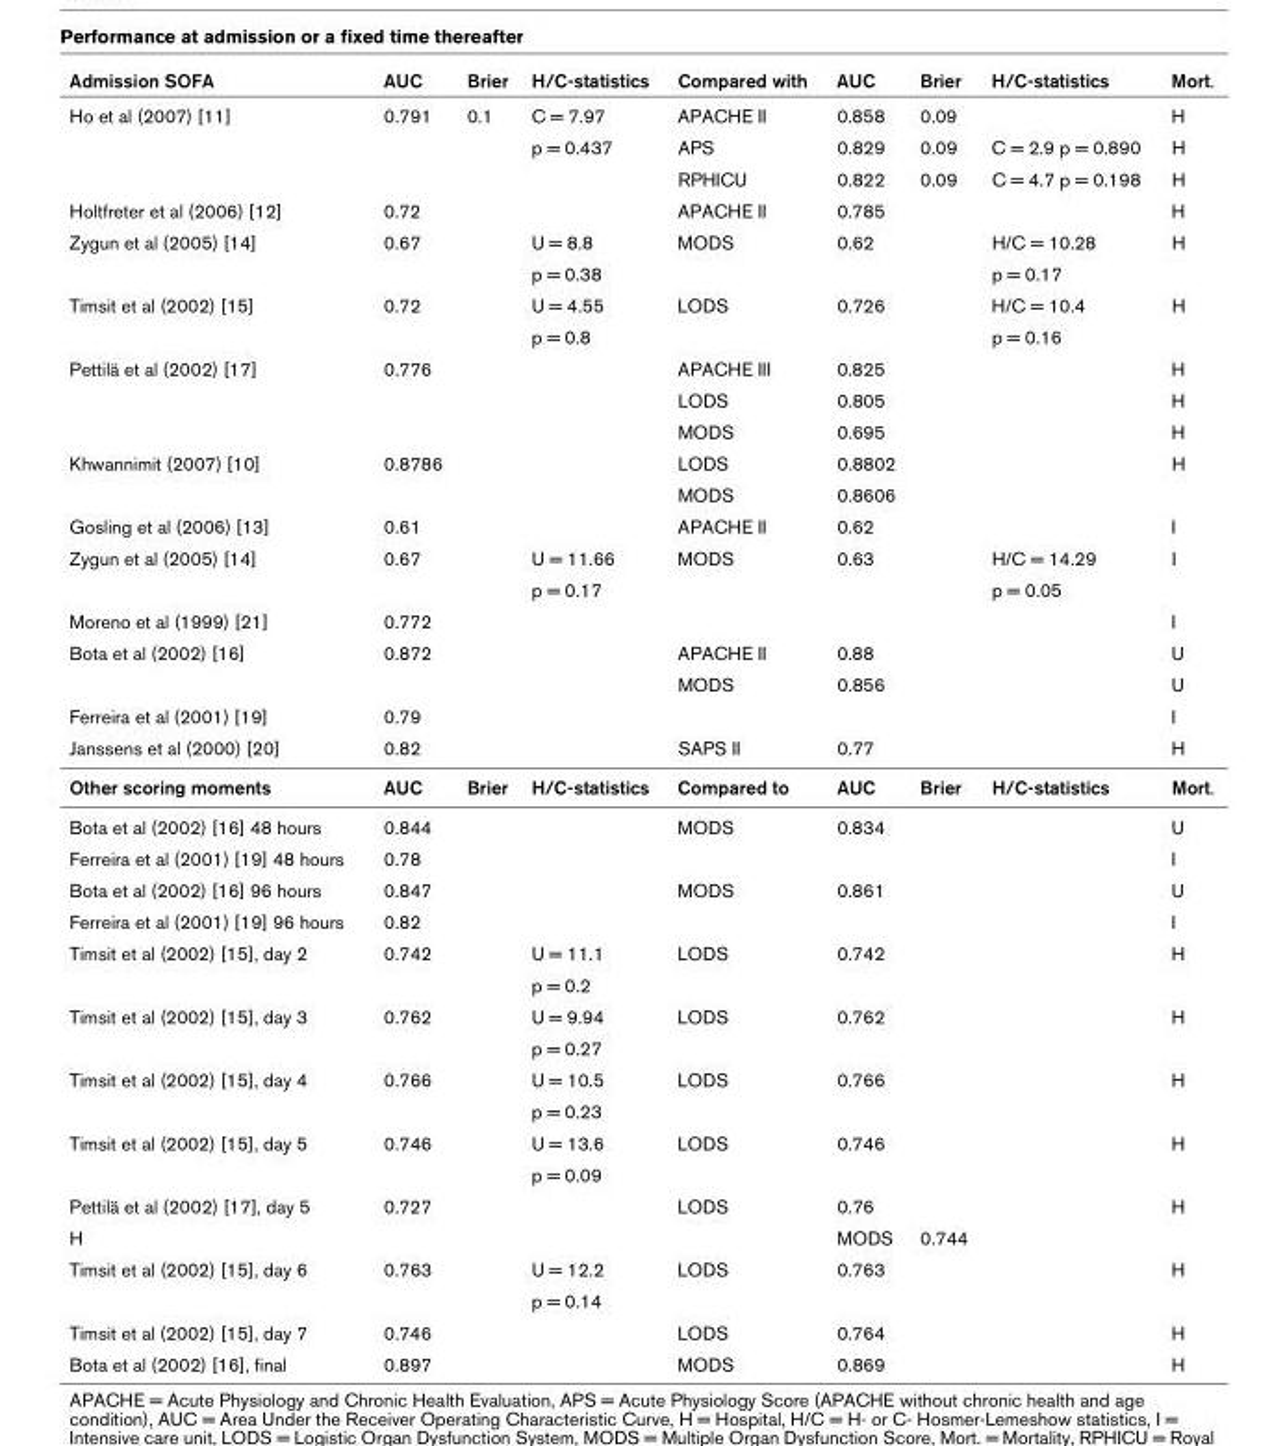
<table><thead><tr><td>Admission SOFA</td><td>AUC</td><td>Brier</td><td>H/C-statistics</td><td>Compared with</td><td>AUC</td><td>Brier</td><td>H/C-statistics</td><td>Mort.</td></tr></thead><tbody><tr><td rowspan="3">Ho et al (2007) [11]</td><td>0.791</td><td>0.1</td><td>C = 7.97</td><td>APACHE II</td><td>0.858</td><td>0.09</td><td></td><td>H</td></tr><tr><td></td><td></td><td>p = 0.437</td><td>APS</td><td>0.829</td><td>0.09</td><td>C = 2.9 p = 0.890</td><td>H</td></tr><tr><td></td><td></td><td></td><td>RPHICU</td><td>0.822</td><td>0.09</td><td>C = 4.7 p = 0.198</td><td>H</td></tr><tr><td>Holtfreter et al (2006) [12]</td><td>0.72</td><td></td><td></td><td>APACHE II</td><td>0.785</td><td></td><td></td><td>H</td></tr><tr><td rowspan="2">Zygun et al (2005) [14]</td><td>0.67</td><td></td><td>U = 8.8</td><td>MODS</td><td>0.62</td><td></td><td>H/C = 10.28</td><td>H</td></tr><tr><td></td><td></td><td>p = 0.38</td><td></td><td></td><td></td><td>p = 0.17</td><td></td></tr><tr><td rowspan="2">Timsit et al (2002) [15]</td><td>0.72</td><td></td><td>U = 4.55</td><td>LODS</td><td>0.726</td><td></td><td>H/C = 10.4</td><td>H</td></tr><tr><td></td><td></td><td>p = 0.8</td><td></td><td></td><td></td><td>p = 0.16</td><td></td></tr><tr><td rowspan="3">Pettilä et al (2002) [17]</td><td>0.776</td><td></td><td></td><td>APACHE III</td><td>0.825</td><td></td><td></td><td>H</td></tr><tr><td></td><td></td><td></td><td>LODS</td><td>0.805</td><td></td><td></td><td>H</td></tr><tr><td></td><td></td><td></td><td>MODS</td><td>0.695</td><td></td><td></td><td>H</td></tr><tr><td rowspan="2">Khwannimit (2007) [10]</td><td>0.8786</td><td></td><td></td><td>LODS</td><td>0.8802</td><td></td><td></td><td>H</td></tr><tr><td></td><td></td><td></td><td>MODS</td><td>0.8606</td><td></td><td></td><td></td></tr><tr><td>Gosling et al (2006) [13]</td><td>0.61</td><td></td><td></td><td>APACHE II</td><td>0.62</td><td></td><td></td><td>I</td></tr><tr><td rowspan="2">Zygun et al (2005) [14]</td><td>0.67</td><td></td><td>U = 11.66</td><td>MODS</td><td>0.63</td><td></td><td>H/C = 14.29</td><td>I</td></tr><tr><td></td><td></td><td>p = 0.17</td><td></td><td></td><td></td><td>p = 0.05</td><td></td></tr><tr><td>Moreno et al (1999) [21]</td><td>0.772</td><td></td><td></td><td></td><td></td><td></td><td></td><td>I</td></tr><tr><td rowspan="2">Bota et al (2002) [16]</td><td>0.872</td><td></td><td></td><td>APACHE II</td><td>0.88</td><td></td><td></td><td>U</td></tr><tr><td></td><td></td><td></td><td>MODS</td><td>0.856</td><td></td><td></td><td>U</td></tr><tr><td>Ferreira et al (2001) [19]</td><td>0.79</td><td></td><td></td><td></td><td></td><td></td><td></td><td>I</td></tr><tr><td>Janssens et al (2000) [20]</td><td>0.82</td><td></td><td></td><td>SAPS II</td><td>0.77</td><td></td><td></td><td>H</td></tr><tr><td>Other scoring moments</td><td>AUC</td><td>Brier</td><td>H/C-statistics</td><td>Compared to</td><td>AUC</td><td>Brier</td><td>H/C-statistics</td><td>Mort.</td></tr><tr><td>Bota et al (2002) [16] 48 hours</td><td>0.844</td><td></td><td></td><td>MODS</td><td>0.834</td><td></td><td></td><td>U</td></tr><tr><td>Ferreira et al (2001) [19] 48 hours</td><td>0.78</td><td></td><td></td><td></td><td></td><td></td><td></td><td>I</td></tr><tr><td>Bota et al (2002) [16] 96 hours</td><td>0.847</td><td></td><td></td><td>MODS</td><td>0.861</td><td></td><td></td><td>U</td></tr><tr><td>Ferreira et al (2001) [19] 96 hours</td><td>0.82</td><td></td><td></td><td></td><td></td><td></td><td></td><td>I</td></tr><tr><td rowspan="2">Timsit et al (2002) [15], day 2</td><td>0.742</td><td></td><td>U = 11.1</td><td>LODS</td><td>0.742</td><td></td><td></td><td>H</td></tr><tr><td></td><td></td><td>p = 0.2</td><td></td><td></td><td></td><td></td><td></td></tr><tr><td rowspan="2">Timsit et al (2002) [15], day 3</td><td>0.762</td><td></td><td>U = 9.94</td><td>LODS</td><td>0.762</td><td></td><td></td><td>H</td></tr><tr><td></td><td></td><td>p = 0.27</td><td></td><td></td><td></td><td></td><td></td></tr><tr><td rowspan="2">Timsit et al (2002) [15], day 4</td><td>0.766</td><td></td><td>U = 10.5</td><td>LODS</td><td>0.766</td><td></td><td></td><td>H</td></tr><tr><td></td><td></td><td>p = 0.23</td><td></td><td></td><td></td><td></td><td></td></tr><tr><td rowspan="2">Timsit et al (2002) [15], day 5</td><td>0.746</td><td></td><td>U = 13.6</td><td>LODS</td><td>0.746</td><td></td><td></td><td>H</td></tr><tr><td></td><td></td><td>p = 0.09</td><td></td><td></td><td></td><td></td><td></td></tr><tr><td>Pettilä et al (2002) [17], day 5</td><td>0.727</td><td></td><td></td><td>LODS</td><td>0.76</td><td></td><td></td><td>H</td></tr><tr><td>H</td><td></td><td></td><td></td><td></td><td>MODS</td><td>0.744</td><td></td><td></td></tr><tr><td rowspan="2">Timsit et al (2002) [15], day 6</td><td>0.763</td><td></td><td>U = 12.2</td><td>LODS</td><td>0.763</td><td></td><td></td><td>H</td></tr><tr><td></td><td></td><td>p = 0.14</td><td></td><td></td><td></td><td></td><td></td></tr><tr><td>Timsit et al (2002) [15], day 7</td><td>0.746</td><td></td><td></td><td>LODS</td><td>0.764</td><td></td><td></td><td>H</td></tr><tr><td>Bota et al (2002) [16], final</td><td>0.897</td><td></td><td></td><td>MODS</td><td>0.869</td><td></td><td></td><td>H</td></tr></tbody></table>